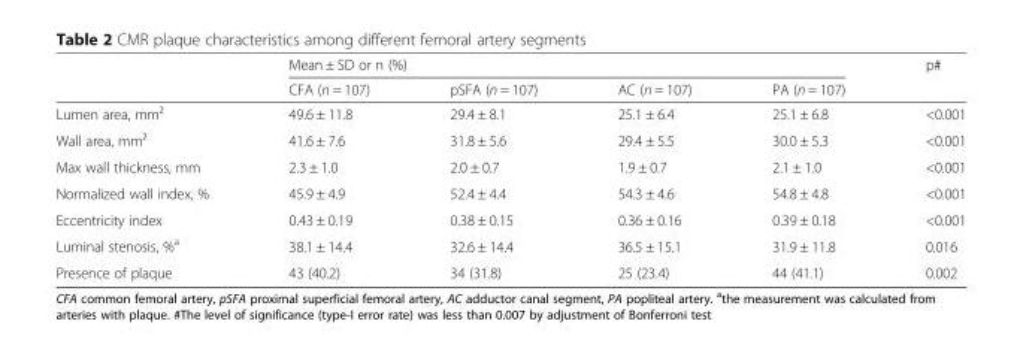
<table><thead><tr><td rowspan="2"></td><td colspan="4">Mean ± SD or n (%)</td><td rowspan="2">p#</td></tr><tr><td>CFA (n = 107)</td><td>pSFA (n = 107)</td><td>AC (n = 107)</td><td>PA (n = 107)</td></tr></thead><tbody><tr><td>Lumen area, mm²</td><td>49.6 ± 11.8</td><td>29.4 ± 8.1</td><td>25.1 ± 6.4</td><td>25.1 ± 6.8</td><td>&lt;0.001</td></tr><tr><td>Wall area, mm²</td><td>41.6 ± 7.6</td><td>31.8 ± 5.6</td><td>29.4 ± 5.5</td><td>30.0 ± 5.3</td><td>&lt;0.001</td></tr><tr><td>Max wall thickness, mm</td><td>2.3 ± 1.0</td><td>2.0 ± 0.7</td><td>1.9 ± 0.7</td><td>2.1 ± 1.0</td><td>&lt;0.001</td></tr><tr><td>Normalized wall index, %</td><td>45.9 ± 4.9</td><td>52.4 ± 4.4</td><td>54.3 ± 4.6</td><td>54.8 ± 4.8</td><td>&lt;0.001</td></tr><tr><td>Eccentricity index</td><td>0.43 ± 0.19</td><td>0.38 ± 0.15</td><td>0.36 ± 0.16</td><td>0.39 ± 0.18</td><td>&lt;0.001</td></tr><tr><td>Luminal stenosis, %<sup>a</sup></td><td>38.1 ± 14.4</td><td>32.6 ± 14.4</td><td>36.5 ± 15.1</td><td>31.9 ± 11.8</td><td>0.016</td></tr><tr><td>Presence of plaque</td><td>43 (40.2)</td><td>34 (31.8)</td><td>25 (23.4)</td><td>44 (41.1)</td><td>0.002</td></tr></tbody></table>